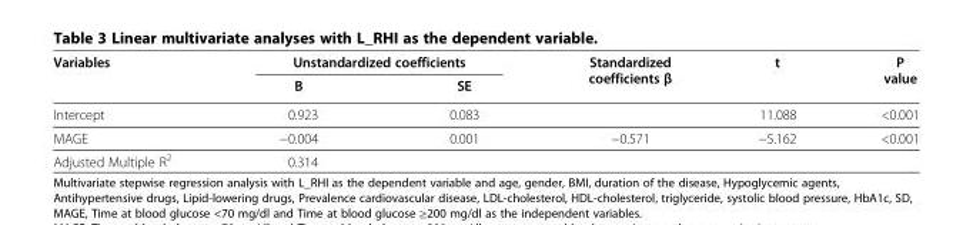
<table><thead><tr><td rowspan="2">Variables</td><td colspan="2">Unstandardized coefficients</td><td rowspan="2">Standardized coefficients β</td><td rowspan="2">t</td><td rowspan="2">P value</td></tr><tr><td>B</td><td>SE</td></tr></thead><tbody><tr><td>Intercept</td><td>0.923</td><td>0.083</td><td></td><td>11.088</td><td>&lt;0.001</td></tr><tr><td>MAGE</td><td>−0.004</td><td>0.001</td><td>−0.571</td><td>−5.162</td><td>&lt;0.001</td></tr><tr><td>Adjusted Multiple R<sup>2</sup></td><td>0.314</td><td></td><td></td><td></td><td></td></tr></tbody></table>